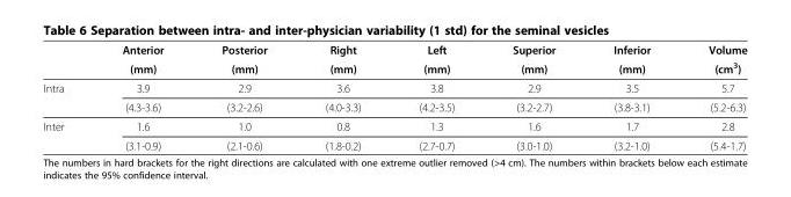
<table><thead><tr><td rowspan="2"></td><td rowspan="2">Anterior (mm)</td><td rowspan="2">Posterior (mm)</td><td rowspan="2">Right (mm)</td><td rowspan="2">Left (mm)</td><td rowspan="2">Superior (mm)</td><td rowspan="2">Inferior (mm)</td><td rowspan="2">Volume (cm<sup>3</sup>)</td></tr><tr></tr></thead><tbody><tr><td rowspan="2">Intra</td><td>3.9</td><td>2.9</td><td>3.6</td><td>3.8</td><td>2.9</td><td>3.5</td><td>5.7</td></tr><tr><td>(4.3-3.6)</td><td>(3.2-2.6)</td><td>(4.0-3.3)</td><td>(4.2-3.5)</td><td>(3.2-2.7)</td><td>(3.8-3.1)</td><td>(5.2-6.3)</td></tr><tr><td rowspan="2">Inter</td><td>1.6</td><td>1.0</td><td>0.8</td><td>1.3</td><td>1.6</td><td>1.7</td><td>2.8</td></tr><tr><td>(3.1-0.9)</td><td>(2.1-0.6)</td><td>(1.8-0.2)</td><td>(2.7-0.7)</td><td>(3.0-1.0)</td><td>(3.2-1.0)</td><td>(5.4-1.7)</td></tr></tbody></table>